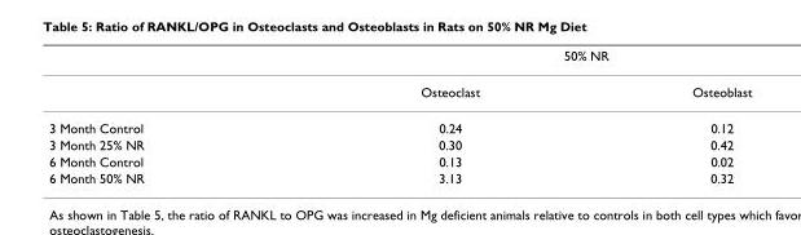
<table><thead><tr><td rowspan="2"></td><td colspan="2">50% NR</td></tr><tr><td>Osteoclast</td><td>Osteoblast</td></tr></thead><tbody><tr><td>3 Month Control</td><td>0.24</td><td>0.12</td></tr><tr><td>3 Month 25% NR</td><td>0.30</td><td>0.42</td></tr><tr><td>6 Month Control</td><td>0.13</td><td>0.02</td></tr><tr><td>6 Month 50% NR</td><td>3.13</td><td>0.32</td></tr></tbody></table>